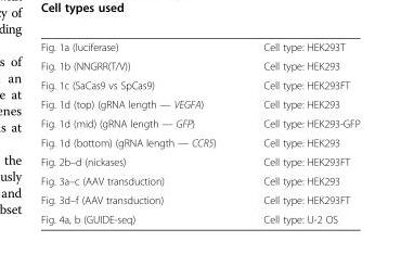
<table><tbody><tr><td>Fig. 1a (luciferase)</td><td>Cell type: HEK293T</td></tr><tr><td>Fig. 1b (NNGRR(T/V))</td><td>Cell type: HEK293</td></tr><tr><td>Fig. 1c (SaCas9 vs SpCas9)</td><td>Cell type: HEK293FT</td></tr><tr><td>Fig. 1d (top) (gRNA length — VEGFA)</td><td>Cell type: HEK293</td></tr><tr><td>Fig. 1d (mid) (gRNA length — GFP)</td><td>Cell type: HEK293-GFP</td></tr><tr><td>Fig. 1d (bottom) (gRNA length — CCR5)</td><td>Cell type: HEK293</td></tr><tr><td>Fig. 2b–d (nickases)</td><td>Cell type: HEK293FT</td></tr><tr><td>Fig. 3a–c (AAV transduction)</td><td>Cell type: HEK293</td></tr><tr><td>Fig. 3d–f (AAV transduction)</td><td>Cell type: HEK293FT</td></tr><tr><td>Fig. 4a, b (GUIDE-seq)</td><td>Cell type: U-2 OS</td></tr></tbody></table>